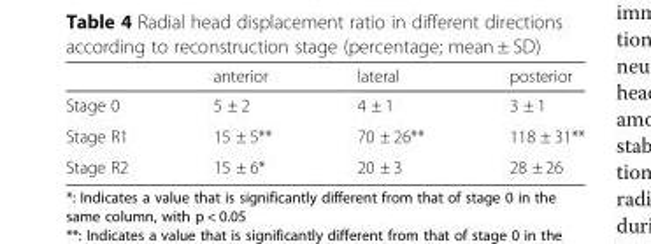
<table><thead><tr><td></td><td>anterior</td><td>lateral</td><td>posterior</td></tr></thead><tbody><tr><td>Stage 0</td><td>5 ± 2</td><td>4 ± 1</td><td>3 ± 1</td></tr><tr><td>Stage R1</td><td>15 ± 5**</td><td>70 ± 26**</td><td>118 ± 31**</td></tr><tr><td>Stage R2</td><td>15 ± 6*</td><td>20 ± 3</td><td>28 ± 26</td></tr></tbody></table>